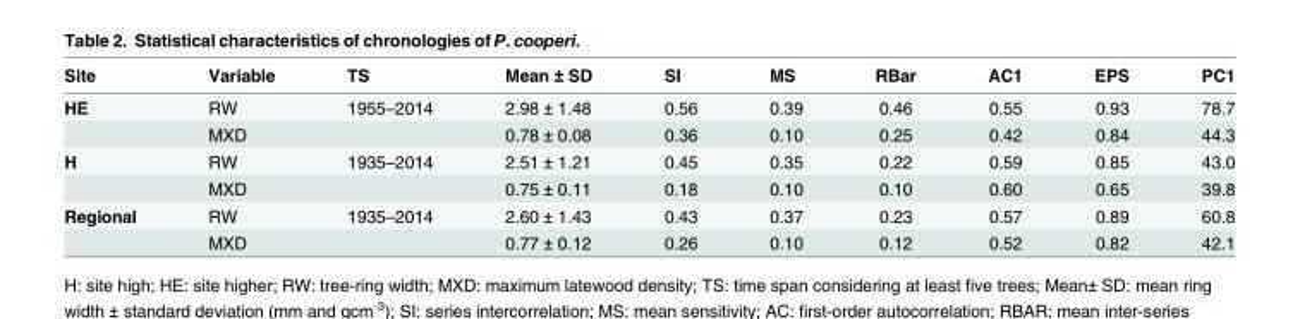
<table><thead><tr><td>Site</td><td>Variable</td><td>TS</td><td>Mean ± SD</td><td>SI</td><td>MS</td><td>RBar</td><td>AC1</td><td>EPS</td><td>PC1</td></tr></thead><tbody><tr><td rowspan="2">HE</td><td>RW</td><td>1955–2014</td><td>2.98 ± 1.48</td><td>0.56</td><td>0.39</td><td>0.46</td><td>0.55</td><td>0.93</td><td>78.7</td></tr><tr><td>MXD</td><td></td><td>0.78 ± 0.08</td><td>0.36</td><td>0.10</td><td>0.25</td><td>0.42</td><td>0.84</td><td>44.3</td></tr><tr><td rowspan="2">H</td><td>RW</td><td>1935–2014</td><td>2.51 ± 1.21</td><td>0.45</td><td>0.35</td><td>0.22</td><td>0.59</td><td>0.85</td><td>43.0</td></tr><tr><td>MXD</td><td></td><td>0.75 ± 0.11</td><td>0.18</td><td>0.10</td><td>0.10</td><td>0.60</td><td>0.65</td><td>39.8</td></tr><tr><td rowspan="2">Regional</td><td>RW</td><td>1935–2014</td><td>2.60 ± 1.43</td><td>0.43</td><td>0.37</td><td>0.23</td><td>0.57</td><td>0.89</td><td>60.8</td></tr><tr><td>MXD</td><td></td><td>0.77 ± 0.12</td><td>0.26</td><td>0.10</td><td>0.12</td><td>0.52</td><td>0.82</td><td>42.1</td></tr></tbody></table>